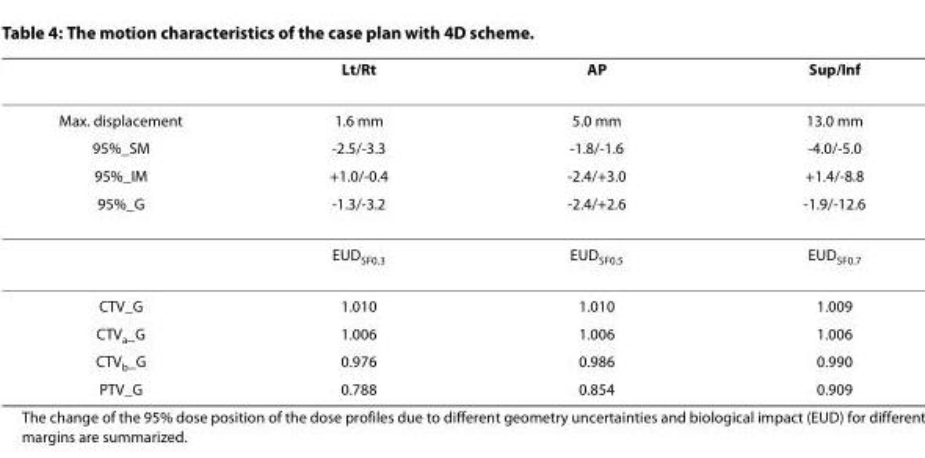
<table><thead><tr><td></td><td>Lt/Rt</td><td>AP</td><td>Sup/Inf</td></tr></thead><tbody><tr><td>Max. displacement</td><td>1.6 mm</td><td>5.0 mm</td><td>13.0 mm</td></tr><tr><td>95%_SM</td><td>-2.5/-3.3</td><td>-1.8/-1.6</td><td>-4.0/-5.0</td></tr><tr><td>95%_IM</td><td>+1.0/-0.4</td><td>-2.4/+3.0</td><td>+1.4/-8.8</td></tr><tr><td rowspan="2">95%_G</td><td>-1.3/-3.2</td><td>-2.4/+2.6</td><td>-1.9/-12.6</td></tr><tr><td>EUD<sub>SF0.3</sub></td><td>EUD<sub>SF0.5</sub></td><td>EUD<sub>SF0.7</sub></td></tr><tr><td>CTV_G</td><td>1.010</td><td>1.010</td><td>1.009</td></tr><tr><td>CTVa_G</td><td>1.006</td><td>1.006</td><td>1.006</td></tr><tr><td>CTVb_G</td><td>0.976</td><td>0.986</td><td>0.990</td></tr><tr><td>PTV_G</td><td>0.788</td><td>0.854</td><td>0.909</td></tr></tbody></table>